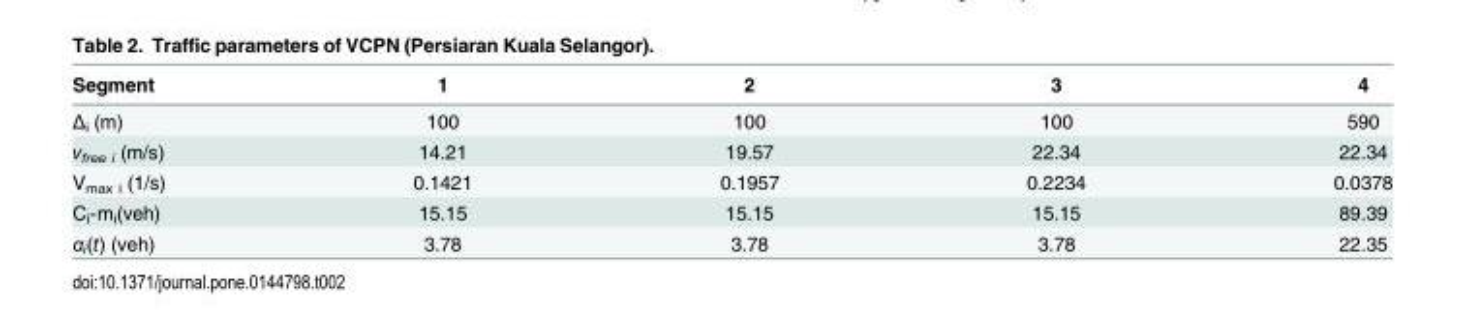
<table><thead><tr><td>Segment</td><td>1</td><td>2</td><td>3</td><td>4</td></tr></thead><tbody><tr><td>Δ<sub>i</sub> (m)</td><td>100</td><td>100</td><td>100</td><td>590</td></tr><tr><td>v<sub>free i</sub> (m/s)</td><td>14.21</td><td>19.57</td><td>22.34</td><td>22.34</td></tr><tr><td>V<sub>max i</sub> (1/s)</td><td>0.1421</td><td>0.1957</td><td>0.2234</td><td>0.0378</td></tr><tr><td>C<sub>i</sub>-m<sub>i</sub>(veh)</td><td>15.15</td><td>15.15</td><td>15.15</td><td>89.39</td></tr><tr><td>α<sub>i</sub>(t) (veh)</td><td>3.78</td><td>3.78</td><td>3.78</td><td>22.35</td></tr></tbody></table>